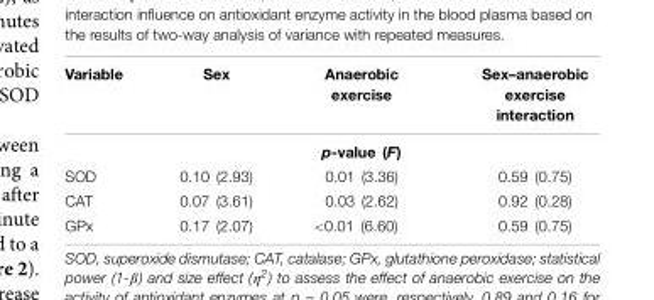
<table><thead><tr><td>Variable</td><td>Sex</td><td>Anaerobic exercise</td><td>Sex–anaerobic exercise interaction</td></tr></thead><tbody><tr><td></td><td></td><td>p-value (F)</td><td></td></tr><tr><td>SOD</td><td>0.10 (2.93)</td><td>0.01 (3.36)</td><td>0.59 (0.75)</td></tr><tr><td>CAT</td><td>0.07 (3.61)</td><td>0.03 (2.62)</td><td>0.92 (0.28)</td></tr><tr><td>GPx</td><td>0.17 (2.07)</td><td>&lt;0.01 (6.60)</td><td>0.59 (0.75)</td></tr></tbody></table>